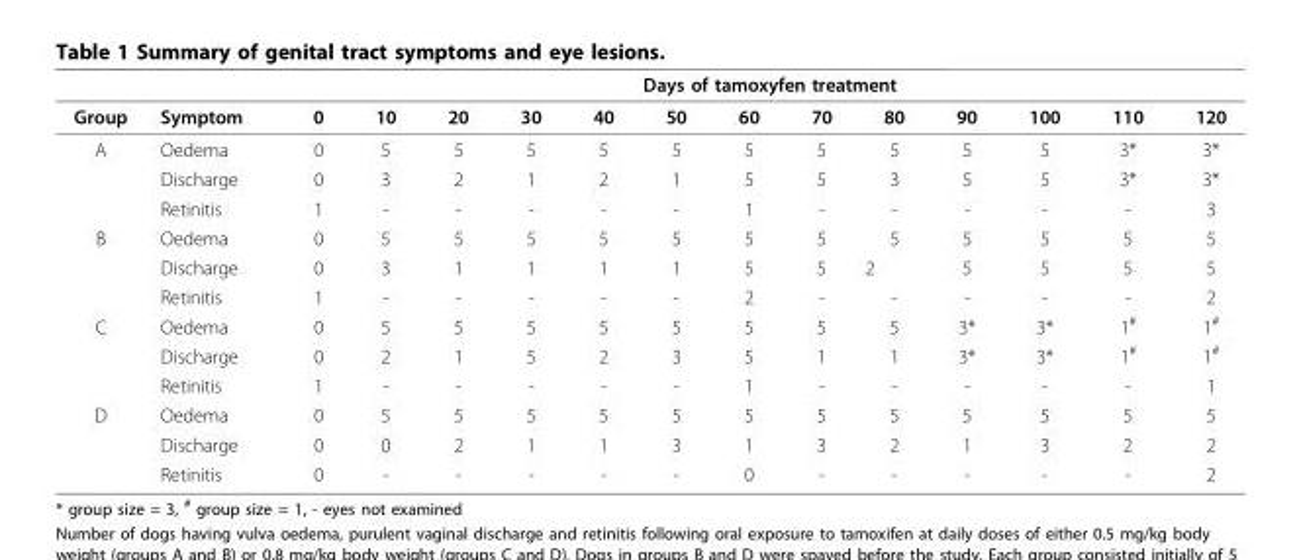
<table><thead><tr><td rowspan="2">Group</td><td rowspan="2">Symptom</td><td colspan="13">Days of tamoxyfen treatment</td></tr><tr><td>0</td><td>10</td><td>20</td><td>30</td><td>40</td><td>50</td><td>60</td><td>70</td><td>80</td><td>90</td><td>100</td><td>110</td><td>120</td></tr></thead><tbody><tr><td rowspan="3">A</td><td>Oedema</td><td>0</td><td>5</td><td>5</td><td>5</td><td>5</td><td>5</td><td>5</td><td>5</td><td>5</td><td>5</td><td>5</td><td>3*</td><td>3*</td></tr><tr><td>Discharge</td><td>0</td><td>3</td><td>2</td><td>1</td><td>2</td><td>1</td><td>5</td><td>5</td><td>3</td><td>5</td><td>5</td><td>3*</td><td>3*</td></tr><tr><td>Retinitis</td><td>1</td><td>-</td><td>-</td><td>-</td><td>-</td><td>-</td><td>1</td><td>-</td><td>-</td><td>-</td><td>-</td><td>-</td><td>3</td></tr><tr><td rowspan="3">B</td><td>Oedema</td><td>0</td><td>5</td><td>5</td><td>5</td><td>5</td><td>5</td><td>5</td><td>5</td><td>5</td><td>5</td><td>5</td><td>5</td><td>5</td></tr><tr><td>Discharge</td><td>0</td><td>3</td><td>1</td><td>1</td><td>1</td><td>1</td><td>5</td><td>5</td><td>2</td><td>5</td><td>5</td><td>5</td><td>5</td></tr><tr><td>Retinitis</td><td>1</td><td>-</td><td>-</td><td>-</td><td>-</td><td>-</td><td>2</td><td>-</td><td>-</td><td>-</td><td>-</td><td>-</td><td>2</td></tr><tr><td rowspan="3">C</td><td>Oedema</td><td>0</td><td>5</td><td>5</td><td>5</td><td>5</td><td>5</td><td>5</td><td>5</td><td>5</td><td>3*</td><td>3*</td><td>1<sup>#</sup></td><td>1<sup>#</sup></td></tr><tr><td>Discharge</td><td>0</td><td>2</td><td>1</td><td>5</td><td>2</td><td>3</td><td>5</td><td>1</td><td>1</td><td>3*</td><td>3*</td><td>1<sup>#</sup></td><td>1<sup>#</sup></td></tr><tr><td>Retinitis</td><td>1</td><td>-</td><td>-</td><td>-</td><td>-</td><td>-</td><td>1</td><td>-</td><td>-</td><td>-</td><td>-</td><td>-</td><td>1</td></tr><tr><td rowspan="3">D</td><td>Oedema</td><td>0</td><td>5</td><td>5</td><td>5</td><td>5</td><td>5</td><td>5</td><td>5</td><td>5</td><td>5</td><td>5</td><td>5</td><td>5</td></tr><tr><td>Discharge</td><td>0</td><td>0</td><td>2</td><td>1</td><td>1</td><td>3</td><td>1</td><td>3</td><td>2</td><td>1</td><td>3</td><td>2</td><td>2</td></tr><tr><td>Retinitis</td><td>0</td><td>-</td><td>-</td><td>-</td><td>-</td><td>-</td><td>0</td><td>-</td><td>-</td><td>-</td><td>-</td><td>-</td><td>2</td></tr></tbody></table>